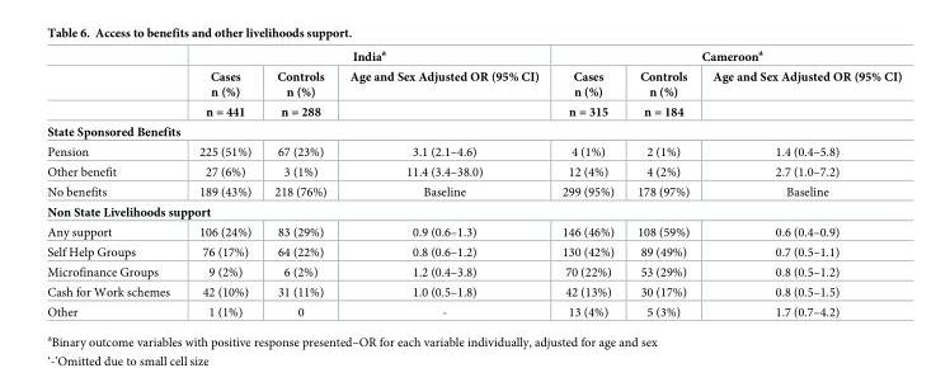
<table><thead><tr><td rowspan="3"></td><td colspan="3">India<sup>a</sup></td><td colspan="3">Cameroon<sup>a</sup></td></tr><tr><td rowspan="2">Cases n (%) n = 441</td><td rowspan="2">Controls n (%) n = 288</td><td rowspan="2">Age and Sex Adjusted OR (95% CI)</td><td rowspan="2">Cases n (%) n = 315</td><td rowspan="2">Controls n (%) n = 184</td><td rowspan="2">Age and Sex Adjusted OR (95% CI)</td></tr><tr></tr></thead><tbody><tr><td colspan="7">State Sponsored Benefits</td></tr><tr><td>Pension</td><td>225 (51%)</td><td>67 (23%)</td><td>3.1 (2.1–4.6)</td><td>4 (1%)</td><td>2 (1%)</td><td>1.4 (0.4–5.8)</td></tr><tr><td>Other benefit</td><td>27 (6%)</td><td>3 (1%)</td><td>11.4 (3.4–38.0)</td><td>12 (4%)</td><td>4 (2%)</td><td>2.7 (1.0–7.2)</td></tr><tr><td>No benefits</td><td>189 (43%)</td><td>218 (76%)</td><td>Baseline</td><td>299 (95%)</td><td>178 (97%)</td><td>Baseline</td></tr><tr><td colspan="7">Non State Livelihoods support</td></tr><tr><td>Any support</td><td>106 (24%)</td><td>83 (29%)</td><td>0.9 (0.6–1.3)</td><td>146 (46%)</td><td>108 (59%)</td><td>0.6 (0.4–0.9)</td></tr><tr><td>Self Help Groups</td><td>76 (17%)</td><td>64 (22%)</td><td>0.8 (0.6–1.2)</td><td>130 (42%)</td><td>89 (49%)</td><td>0.7 (0.5–1.1)</td></tr><tr><td>Microfinance Groups</td><td>9 (2%)</td><td>6 (2%)</td><td>1.2 (0.4–3.8)</td><td>70 (22%)</td><td>53 (29%)</td><td>0.8 (0.5–1.2)</td></tr><tr><td>Cash for Work schemes</td><td>42 (10%)</td><td>31 (11%)</td><td>1.0 (0.5–1.8)</td><td>42 (13%)</td><td>30 (17%)</td><td>0.8 (0.5–1.5)</td></tr><tr><td>Other</td><td>1 (1%)</td><td>0</td><td>-</td><td>13 (4%)</td><td>5 (3%)</td><td>1.7 (0.7–4.2)</td></tr></tbody></table>